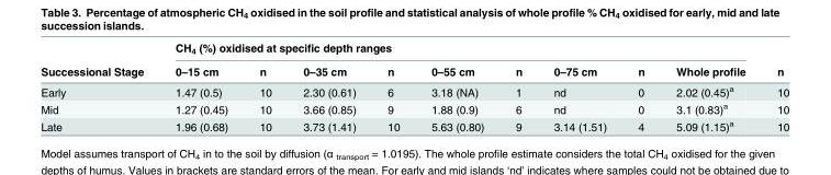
<table><thead><tr><td rowspan="2">Successional Stage</td><td colspan="9">CH<sub>4</sub> (%) oxidised at specific depth ranges</td><td rowspan="2">n</td></tr><tr><td>0–15 cm</td><td>n</td><td>0–35 cm</td><td>n</td><td>0–55 cm</td><td>n</td><td>0–75 cm</td><td>n</td><td>Whole profile</td></tr></thead><tbody><tr><td>Early</td><td>1.47 (0.5)</td><td>10</td><td>2.30 (0.61)</td><td>6</td><td>3.18 (NA)</td><td>1</td><td>nd</td><td>0</td><td>2.02 (0.45)<sup>a</sup></td><td>10</td></tr><tr><td>Mid</td><td>1.27 (0.45)</td><td>10</td><td>3.66 (0.85)</td><td>9</td><td>1.88 (0.9)</td><td>6</td><td>nd</td><td>0</td><td>3.1 (0.83)<sup>a</sup></td><td>10</td></tr><tr><td>Late</td><td>1.96 (0.68)</td><td>10</td><td>3.73 (1.41)</td><td>10</td><td>5.63 (0.80)</td><td>9</td><td>3.14 (1.51)</td><td>4</td><td>5.09 (1.15)<sup>a</sup></td><td>10</td></tr></tbody></table>